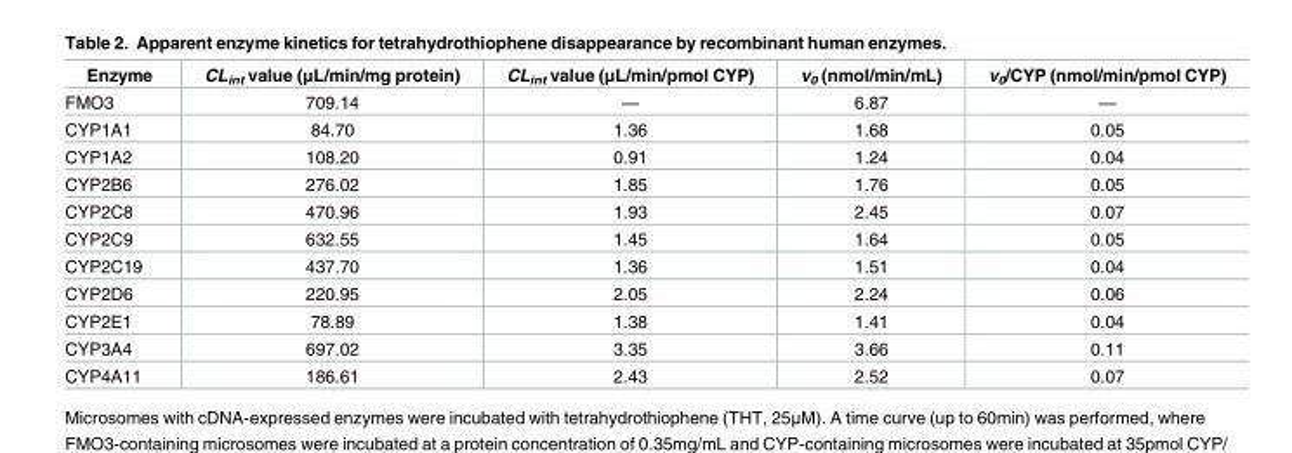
<table><thead><tr><td>Enzyme</td><td>CL<sub>int</sub> value (μL/min/mg protein)</td><td>CL<sub>int</sub> value (μL/min/pmol CYP)</td><td>v<sub>0</sub> (nmol/min/mL)</td><td>v<sub>0</sub>/CYP (nmol/min/pmol CYP)</td></tr></thead><tbody><tr><td>FMO3</td><td>709.14</td><td>—</td><td>6.87</td><td>—</td></tr><tr><td>CYP1A1</td><td>84.70</td><td>1.36</td><td>1.68</td><td>0.05</td></tr><tr><td>CYP1A2</td><td>108.20</td><td>0.91</td><td>1.24</td><td>0.04</td></tr><tr><td>CYP2B6</td><td>276.02</td><td>1.85</td><td>1.76</td><td>0.05</td></tr><tr><td>CYP2C8</td><td>470.96</td><td>1.93</td><td>2.45</td><td>0.07</td></tr><tr><td>CYP2C9</td><td>632.55</td><td>1.45</td><td>1.64</td><td>0.05</td></tr><tr><td>CYP2C19</td><td>437.70</td><td>1.36</td><td>1.51</td><td>0.04</td></tr><tr><td>CYP2D6</td><td>220.95</td><td>2.05</td><td>2.24</td><td>0.06</td></tr><tr><td>CYP2E1</td><td>78.89</td><td>1.38</td><td>1.41</td><td>0.04</td></tr><tr><td>CYP3A4</td><td>697.02</td><td>3.35</td><td>3.66</td><td>0.11</td></tr><tr><td>CYP4A11</td><td>186.61</td><td>2.43</td><td>2.52</td><td>0.07</td></tr></tbody></table>